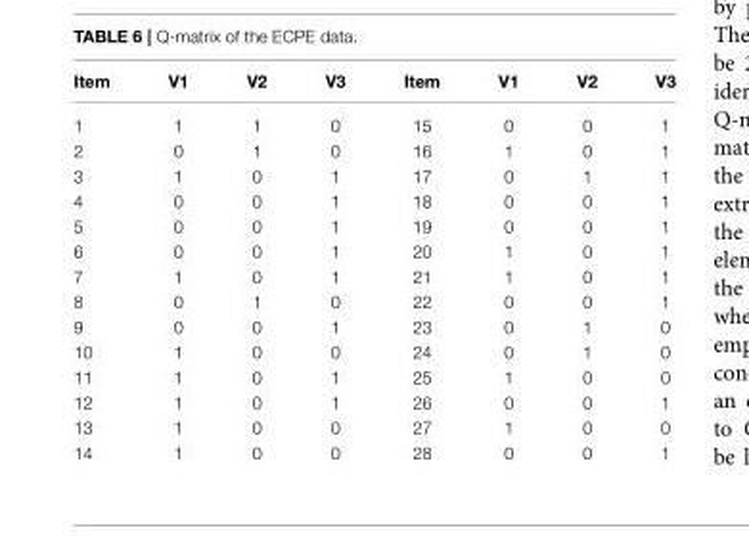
<table><thead><tr><td>Item</td><td>V1</td><td>V2</td><td>V3</td><td>Item</td><td>V1</td><td>V2</td><td>V3</td></tr></thead><tbody><tr><td>1</td><td>1</td><td>1</td><td>0</td><td>15</td><td>0</td><td>0</td><td>1</td></tr><tr><td>2</td><td>0</td><td>1</td><td>0</td><td>16</td><td>1</td><td>0</td><td>1</td></tr><tr><td>3</td><td>1</td><td>0</td><td>1</td><td>17</td><td>0</td><td>1</td><td>1</td></tr><tr><td>4</td><td>0</td><td>0</td><td>1</td><td>18</td><td>0</td><td>0</td><td>1</td></tr><tr><td>5</td><td>0</td><td>0</td><td>1</td><td>19</td><td>0</td><td>0</td><td>1</td></tr><tr><td>6</td><td>0</td><td>0</td><td>1</td><td>20</td><td>1</td><td>0</td><td>1</td></tr><tr><td>7</td><td>1</td><td>0</td><td>1</td><td>21</td><td>1</td><td>0</td><td>1</td></tr><tr><td>8</td><td>0</td><td>1</td><td>0</td><td>22</td><td>0</td><td>0</td><td>1</td></tr><tr><td>9</td><td>0</td><td>0</td><td>1</td><td>23</td><td>0</td><td>1</td><td>0</td></tr><tr><td>10</td><td>1</td><td>0</td><td>0</td><td>24</td><td>0</td><td>1</td><td>0</td></tr><tr><td>11</td><td>1</td><td>0</td><td>1</td><td>25</td><td>1</td><td>0</td><td>0</td></tr><tr><td>12</td><td>1</td><td>0</td><td>1</td><td>26</td><td>0</td><td>0</td><td>1</td></tr><tr><td>13</td><td>1</td><td>0</td><td>0</td><td>27</td><td>1</td><td>0</td><td>0</td></tr><tr><td>14</td><td>1</td><td>0</td><td>0</td><td>28</td><td>0</td><td>0</td><td>1</td></tr></tbody></table>